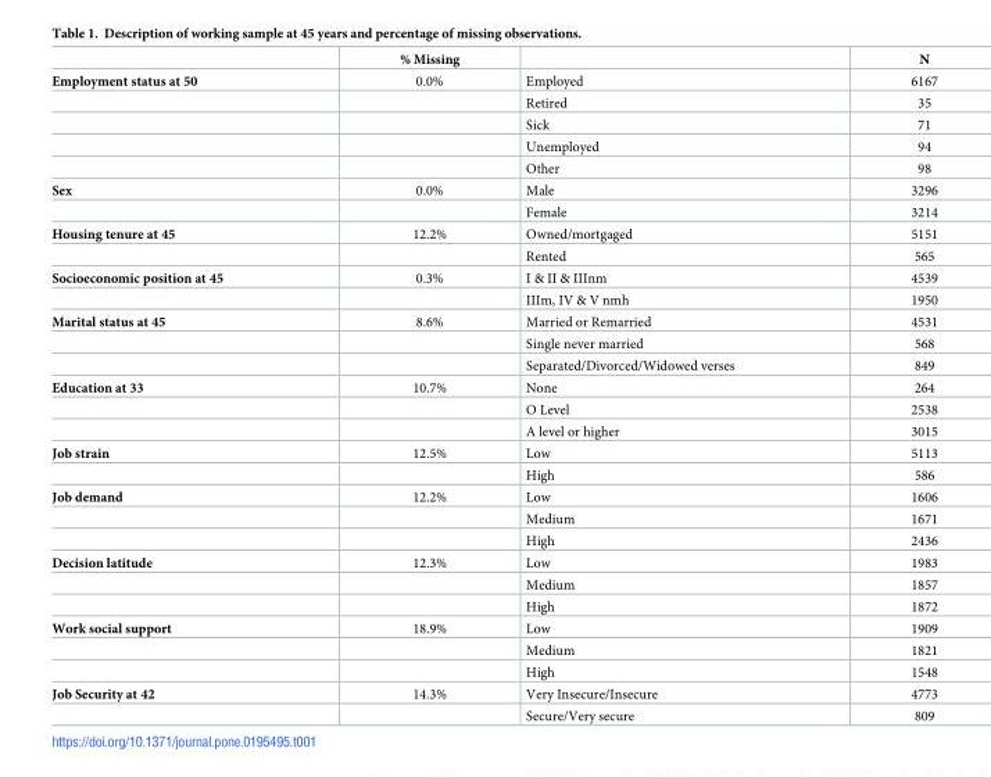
<table><thead><tr><td></td><td>% Missing</td><td></td><td>N</td></tr></thead><tbody><tr><td rowspan="5">Employment status at 50</td><td>0.0%</td><td>Employed</td><td>6167</td></tr><tr><td></td><td>Retired</td><td>35</td></tr><tr><td></td><td>Sick</td><td>71</td></tr><tr><td></td><td>Unemployed</td><td>94</td></tr><tr><td></td><td>Other</td><td>98</td></tr><tr><td rowspan="2">Sex</td><td>0.0%</td><td>Male</td><td>3296</td></tr><tr><td></td><td>Female</td><td>3214</td></tr><tr><td rowspan="2">Housing tenure at 45</td><td>12.2%</td><td>Owned/mortgaged</td><td>5151</td></tr><tr><td></td><td>Rented</td><td>565</td></tr><tr><td rowspan="2">Socioeconomic position at 45</td><td>0.3%</td><td>I &amp; II &amp; IIInm</td><td>4539</td></tr><tr><td></td><td>IIIm, IV &amp; V nmh</td><td>1950</td></tr><tr><td rowspan="3">Marital status at 45</td><td>8.6%</td><td>Married or Remarried</td><td>4531</td></tr><tr><td></td><td>Single never married</td><td>568</td></tr><tr><td></td><td>Separated/Divorced/Widowed verses</td><td>849</td></tr><tr><td rowspan="3">Education at 33</td><td>10.7%</td><td>None</td><td>264</td></tr><tr><td></td><td>O Level</td><td>2538</td></tr><tr><td></td><td>A level or higher</td><td>3015</td></tr><tr><td rowspan="2">Job strain</td><td>12.5%</td><td>Low</td><td>5113</td></tr><tr><td></td><td>High</td><td>586</td></tr><tr><td rowspan="3">Job demand</td><td>12.2%</td><td>Low</td><td>1606</td></tr><tr><td></td><td>Medium</td><td>1671</td></tr><tr><td></td><td>High</td><td>2436</td></tr><tr><td rowspan="3">Decision latitude</td><td>12.3%</td><td>Low</td><td>1983</td></tr><tr><td></td><td>Medium</td><td>1857</td></tr><tr><td></td><td>High</td><td>1872</td></tr><tr><td rowspan="3">Work social support</td><td>18.9%</td><td>Low</td><td>1909</td></tr><tr><td></td><td>Medium</td><td>1821</td></tr><tr><td></td><td>High</td><td>1548</td></tr><tr><td rowspan="2">Job Security at 42</td><td>14.3%</td><td>Very Insecure/Insecure</td><td>4773</td></tr><tr><td></td><td>Secure/Very secure</td><td>809</td></tr></tbody></table>